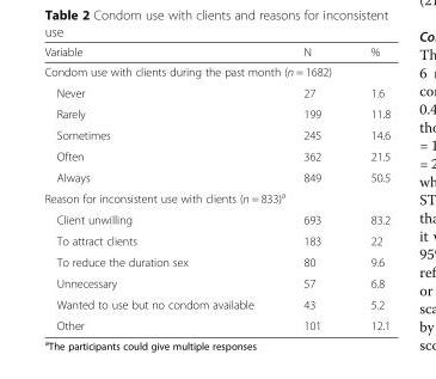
<table><thead><tr><td>Variable</td><td>N</td><td>%</td></tr></thead><tbody><tr><td colspan="3">Condom use with clients during the past month (n = 1682)</td></tr><tr><td>Never</td><td>27</td><td>1.6</td></tr><tr><td>Rarely</td><td>199</td><td>11.8</td></tr><tr><td>Sometimes</td><td>245</td><td>14.6</td></tr><tr><td>Often</td><td>362</td><td>21.5</td></tr><tr><td>Always</td><td>849</td><td>50.5</td></tr><tr><td colspan="3">Reason for inconsistent use with clients (n = 833)<sup>a</sup></td></tr><tr><td>Client unwilling</td><td>693</td><td>83.2</td></tr><tr><td>To attract clients</td><td>183</td><td>22</td></tr><tr><td>To reduce the duration sex</td><td>80</td><td>9.6</td></tr><tr><td>Unnecessary</td><td>57</td><td>6.8</td></tr><tr><td>Wanted to use but no condom available</td><td>43</td><td>5.2</td></tr><tr><td>Other</td><td>101</td><td>12.1</td></tr></tbody></table>